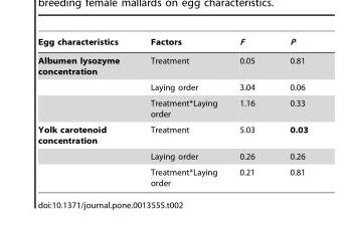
<table><thead><tr><td>Egg characteristics</td><td>Factors</td><td>F</td><td>P</td></tr></thead><tbody><tr><td rowspan="3">Albumen lysozyme concentration</td><td>Treatment</td><td>0.05</td><td>0.81</td></tr><tr><td>Laying order</td><td>3.04</td><td>0.06</td></tr><tr><td>Treatment*Laying order</td><td>1.16</td><td>0.33</td></tr><tr><td rowspan="3">Yolk carotenoid concentration</td><td>Treatment</td><td>5.03</td><td>0.03</td></tr><tr><td>Laying order</td><td>0.26</td><td>0.26</td></tr><tr><td>Treatment*Laying order</td><td>0.21</td><td>0.81</td></tr></tbody></table>